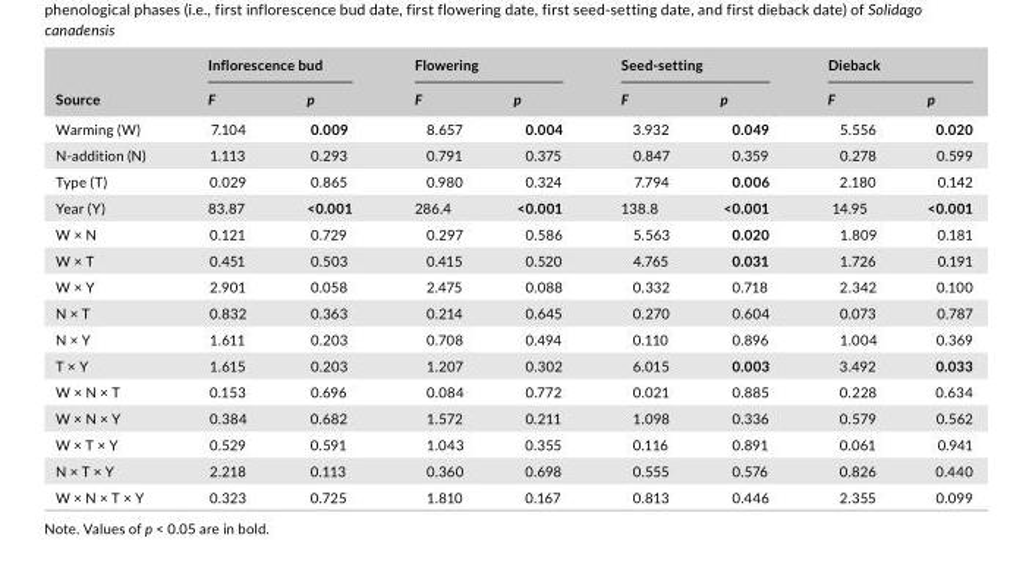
<table><thead><tr><td rowspan="2">Source</td><td colspan="2">Inflorescence bud</td><td colspan="2">Flowering</td><td colspan="2">Seed- setting</td><td colspan="2">Dieback</td></tr><tr><td>F</td><td>p</td><td>F</td><td>p</td><td>F</td><td>p</td><td>F</td><td>p</td></tr></thead><tbody><tr><td>Warming (W)</td><td>7.104</td><td>0.009</td><td>8.657</td><td>0.004</td><td>3.932</td><td>0.049</td><td>5.556</td><td>0.020</td></tr><tr><td>N- addition (N)</td><td>1.113</td><td>0.293</td><td>0.791</td><td>0.375</td><td>0.847</td><td>0.359</td><td>0.278</td><td>0.599</td></tr><tr><td>Type (T)</td><td>0.029</td><td>0.865</td><td>0.980</td><td>0.324</td><td>7.794</td><td>0.006</td><td>2.180</td><td>0.142</td></tr><tr><td>Year (Y)</td><td>83.87</td><td>&lt;0.001</td><td>286.4</td><td>&lt;0.001</td><td>138.8</td><td>&lt;0.001</td><td>14.95</td><td>&lt;0.001</td></tr><tr><td>W × N</td><td>0.121</td><td>0.729</td><td>0.297</td><td>0.586</td><td>5.563</td><td>0.020</td><td>1.809</td><td>0.181</td></tr><tr><td>W × T</td><td>0.451</td><td>0.503</td><td>0.415</td><td>0.520</td><td>4.765</td><td>0.031</td><td>1.726</td><td>0.191</td></tr><tr><td>W × Y</td><td>2.901</td><td>0.058</td><td>2.475</td><td>0.088</td><td>0.332</td><td>0.718</td><td>2.342</td><td>0.100</td></tr><tr><td>N × T</td><td>0.832</td><td>0.363</td><td>0.214</td><td>0.645</td><td>0.270</td><td>0.604</td><td>0.073</td><td>0.787</td></tr><tr><td>N × Y</td><td>1.611</td><td>0.203</td><td>0.708</td><td>0.494</td><td>0.110</td><td>0.896</td><td>1.004</td><td>0.369</td></tr><tr><td>T × Y</td><td>1.615</td><td>0.203</td><td>1.207</td><td>0.302</td><td>6.015</td><td>0.003</td><td>3.492</td><td>0.033</td></tr><tr><td>W × N × T</td><td>0.153</td><td>0.696</td><td>0.084</td><td>0.772</td><td>0.021</td><td>0.885</td><td>0.228</td><td>0.634</td></tr><tr><td>W × N × Y</td><td>0.384</td><td>0.682</td><td>1.572</td><td>0.211</td><td>1.098</td><td>0.336</td><td>0.579</td><td>0.562</td></tr><tr><td>W × T × Y</td><td>0.529</td><td>0.591</td><td>1.043</td><td>0.355</td><td>0.116</td><td>0.891</td><td>0.061</td><td>0.941</td></tr><tr><td>N × T × Y</td><td>2.218</td><td>0.113</td><td>0.360</td><td>0.698</td><td>0.555</td><td>0.576</td><td>0.826</td><td>0.440</td></tr><tr><td>W × N × T × Y</td><td>0.323</td><td>0.725</td><td>1.810</td><td>0.167</td><td>0.813</td><td>0.446</td><td>2.355</td><td>0.099</td></tr></tbody></table>